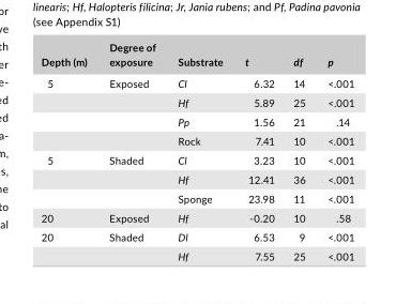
<table><thead><tr><td>Depth (m)</td><td>Degree of exposure</td><td>Substrate</td><td>t</td><td>df</td><td>p</td></tr></thead><tbody><tr><td rowspan="4">5</td><td>Exposed</td><td>Cl</td><td>6.32</td><td>14</td><td>&lt;.001</td></tr><tr><td></td><td>Hf</td><td>5.89</td><td>25</td><td>&lt;.001</td></tr><tr><td></td><td>Pp</td><td>1.56</td><td>21</td><td>.14</td></tr><tr><td></td><td>Rock</td><td>7.41</td><td>10</td><td>&lt;.001</td></tr><tr><td rowspan="3">5</td><td>Shaded</td><td>Cl</td><td>3.23</td><td>10</td><td>&lt;.001</td></tr><tr><td></td><td>Hf</td><td>12.41</td><td>36</td><td>&lt;.001</td></tr><tr><td></td><td>Sponge</td><td>23.98</td><td>11</td><td>&lt;.001</td></tr><tr><td>20</td><td>Exposed</td><td>Hf</td><td>- 0.20</td><td>10</td><td>.58</td></tr><tr><td rowspan="2">20</td><td>Shaded</td><td>Dl</td><td>6.53</td><td>9</td><td>&lt;.001</td></tr><tr><td></td><td>Hf</td><td>7.55</td><td>25</td><td>&lt;.001</td></tr></tbody></table>